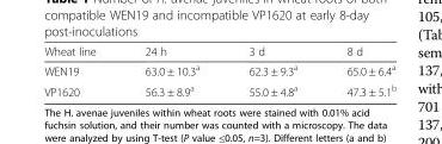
<table><thead><tr><td>Wheat line</td><td>24 h</td><td>3 d</td><td>8 d</td></tr></thead><tbody><tr><td>WEN19</td><td>63.0 ± 10.3<sup>a</sup></td><td>62.3 ± 9.3<sup>a</sup></td><td>65.0 ± 6.4<sup>a</sup></td></tr><tr><td>VP1620</td><td>56.3 ± 8.9<sup>a</sup></td><td>55.0 ± 4.8<sup>a</sup></td><td>47.3 ± 5.1<sup>b</sup></td></tr></tbody></table>